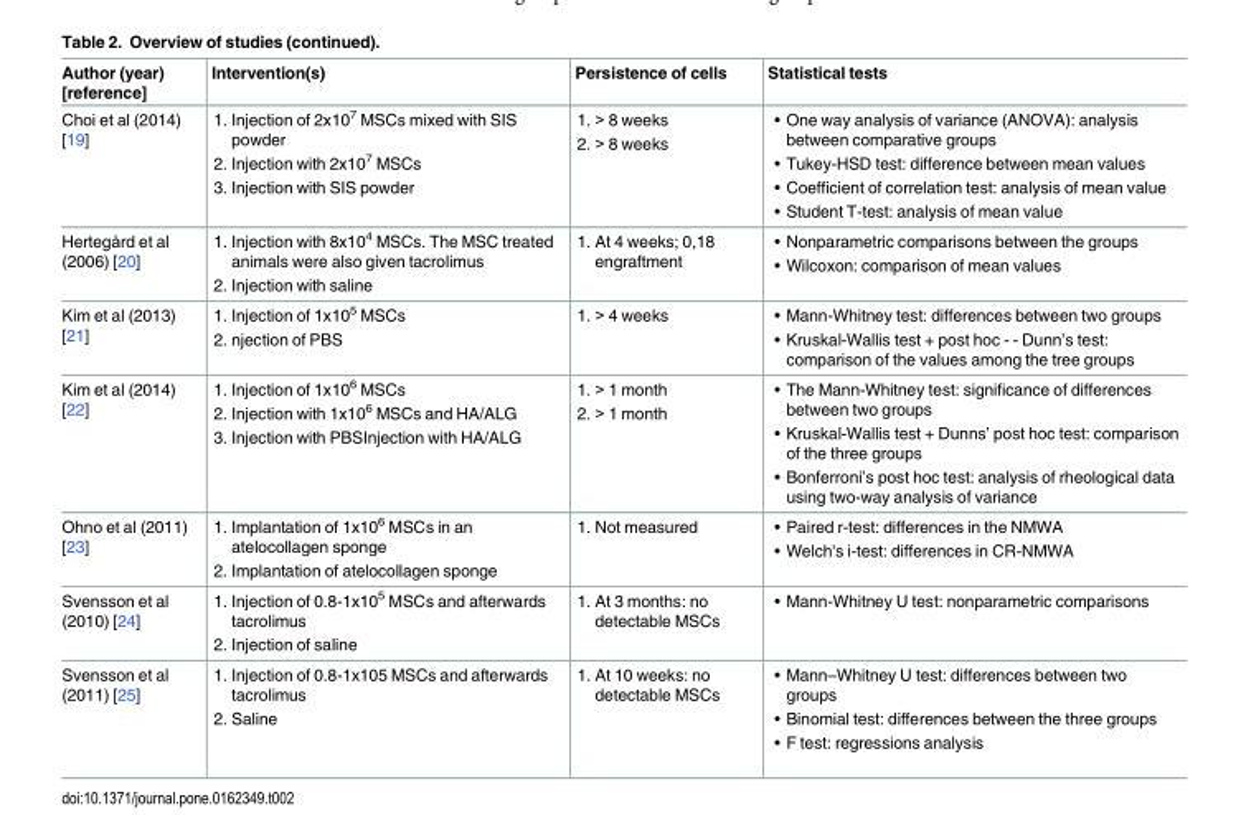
<table><thead><tr><td>Author (year) [reference]</td><td>Intervention(s)</td><td>Persistence of cells</td><td>Statistical tests</td></tr></thead><tbody><tr><td>Choi et al (2014) [19]</td><td>1. Injection of 2x107 MSCs mixed with SIS powder 2. Injection with 2x107 MSCs 3. Injection with SIS powder</td><td>1. &gt; 8 weeks 2. &gt; 8 weeks</td><td>• One way analysis of variance (ANOVA): analysis between comparative groups • Tukey-HSD test: difference between mean values • Coefficient of correlation test: analysis of mean value • Student T-test: analysis of mean value</td></tr><tr><td>Hertegård et al (2006) [20]</td><td>1. Injection with 8x104 MSCs. The MSC treated animals were also given tacrolimus 2. Injection with saline</td><td>1. At 4 weeks; 0,18 engraftment</td><td>• Nonparametric comparisons between the groups • Wilcoxon: comparison of mean values</td></tr><tr><td>Kim et al (2013) [21]</td><td>1. Injection of 1x105 MSCs 2. njection of PBS</td><td>1. &gt; 4 weeks</td><td>• Mann-Whitney test: differences between two groups • Kruskal-Wallis test + post hoc - - Dunn’s test: comparison of the values among the tree groups</td></tr><tr><td>Kim et al (2014) [22]</td><td>1. Injection of 1x106 MSCs 2. Injection with 1x106 MSCs and HA/ALG 3. Injection with PBSInjection with HA/ALG</td><td>1. &gt; 1 month 2. &gt; 1 month</td><td>• The Mann-Whitney test: significance of differences between two groups • Kruskal-Wallis test + Dunns’ post hoc test: comparison of the three groups • Bonferroni’s post hoc test: analysis of rheological data using two-way analysis of variance</td></tr><tr><td>Ohno et al (2011) [23]</td><td>1. Implantation of 1x106 MSCs in an atelocollagen sponge 2. Implantation of atelocollagen sponge</td><td>1. Not measured</td><td>• Paired r-test: differences in the NMWA • Welch&#x27;s i-test: differences in CR-NMWA</td></tr><tr><td>Svensson et al (2010) [24]</td><td>1. Injection of 0.8-1x105 MSCs and afterwards tacrolimus 2. Injection of saline</td><td>1. At 3 months: no detectable MSCs</td><td>• Mann-Whitney U test: nonparametric comparisons</td></tr><tr><td>Svensson et al (2011) [25]</td><td>1. Injection of 0.8-1x105 MSCs and afterwards tacrolimus 2. Saline</td><td>1. At 10 weeks: no detectable MSCs</td><td>• Mann–Whitney U test: differences between two groups • Binomial test: differences between the three groups • F test: regressions analysis</td></tr></tbody></table>